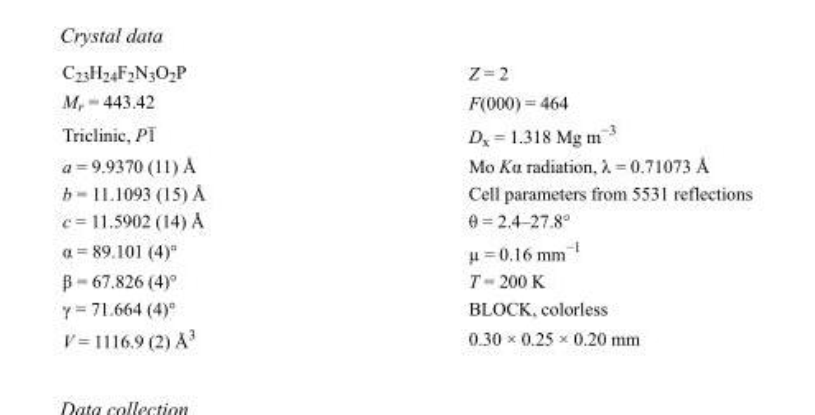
<table><tbody><tr><td>C<sub>23</sub>H<sub>24</sub>F<sub>2</sub>N<sub>3</sub>O<sub>2</sub>P</td><td>Z = 2</td></tr><tr><td>M<sub>r</sub> = 443.42</td><td>F(000) = 464</td></tr><tr><td>Triclinic, P1</td><td>D<sub>x</sub> = 1.318 Mg m<sup>−3</sup></td></tr><tr><td>a = 9.9370 (11) Å</td><td>Mo Kα radiation, λ = 0.71073 Å</td></tr><tr><td>b = 11.1093 (15) Å</td><td>Cell parameters from 5531 reflections</td></tr><tr><td>c = 11.5902 (14) Å</td><td>θ = 2.4–27.8°</td></tr><tr><td>α = 89.101 (4)°</td><td>µ = 0.16 mm<sup>−1</sup></td></tr><tr><td>β = 67.826 (4)°</td><td>T = 200 K</td></tr><tr><td>γ = 71.664 (4)°</td><td>BLOCK, colorless</td></tr><tr><td>V = 1116.9 (2) Å<sup>3</sup></td><td>0.30 × 0.25 × 0.20 mm</td></tr></tbody></table>